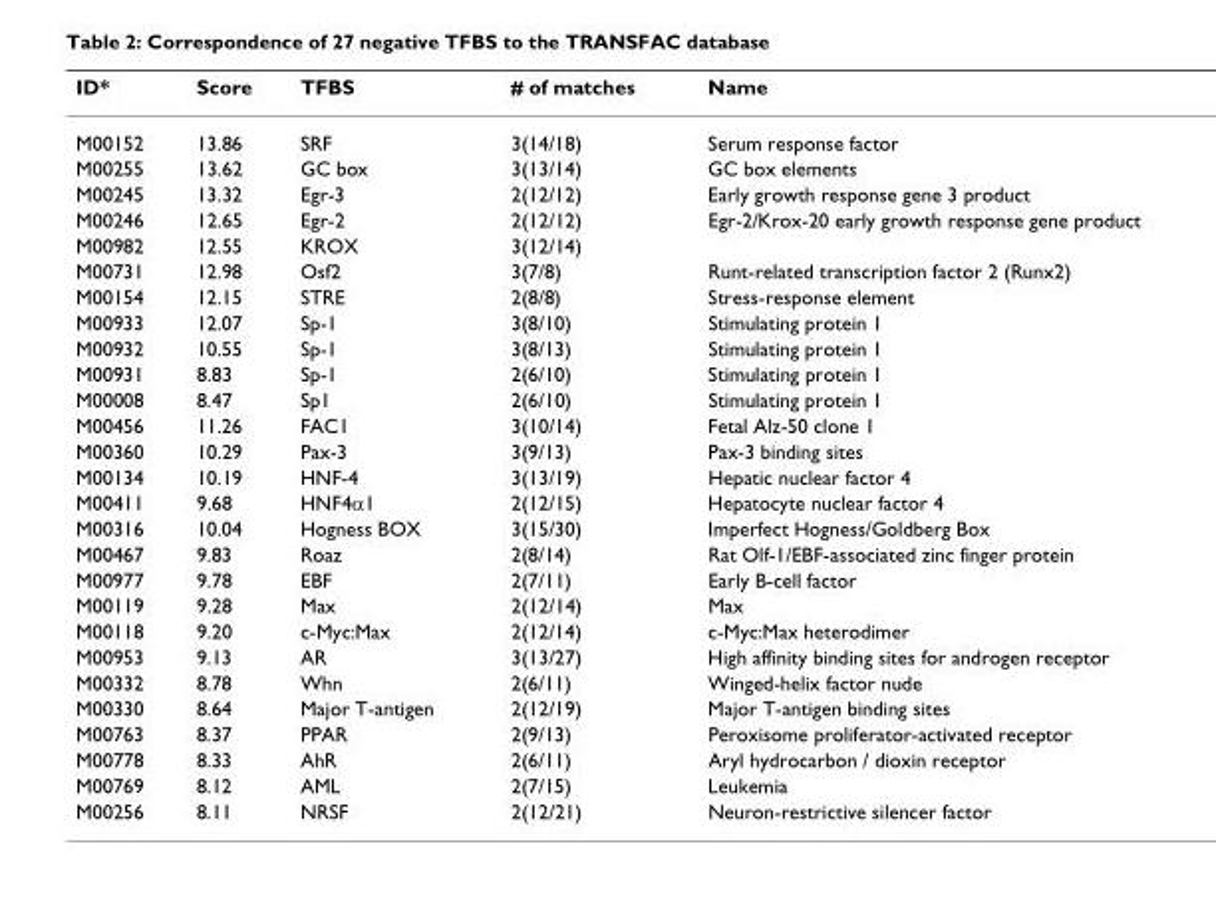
<table><thead><tr><td>ID*</td><td>Score</td><td>TFBS</td><td># of matches</td><td>Name</td></tr></thead><tbody><tr><td>M00152</td><td>13.86</td><td>SRF</td><td>3(14/18)</td><td>Serum response factor</td></tr><tr><td>M00255</td><td>13.62</td><td>GC box</td><td>3(13/14)</td><td>GC box elements</td></tr><tr><td>M00245</td><td>13.32</td><td>Egr-3</td><td>2(12/12)</td><td>Early growth response gene 3 product</td></tr><tr><td>M00246</td><td>12.65</td><td>Egr-2</td><td>2(12/12)</td><td>Egr-2/Krox-20 early growth response gene product</td></tr><tr><td>M00982</td><td>12.55</td><td>KROX</td><td>3(12/14)</td><td></td></tr><tr><td>M00731</td><td>12.98</td><td>Osf2</td><td>3(7/8)</td><td>Runt-related transcription factor 2 (Runx2)</td></tr><tr><td>M00154</td><td>12.15</td><td>STRE</td><td>2(8/8)</td><td>Stress-response element</td></tr><tr><td>M00933</td><td>12.07</td><td>Sp-1</td><td>3(8/10)</td><td>Stimulating protein 1</td></tr><tr><td>M00932</td><td>10.55</td><td>Sp-1</td><td>3(8/13)</td><td>Stimulating protein 1</td></tr><tr><td>M00931</td><td>8.83</td><td>Sp-1</td><td>2(6/10)</td><td>Stimulating protein 1</td></tr><tr><td>M00008</td><td>8.47</td><td>Sp1</td><td>2(6/10)</td><td>Stimulating protein 1</td></tr><tr><td>M00456</td><td>11.26</td><td>FAC1</td><td>3(10/14)</td><td>Fetal Alz-50 clone 1</td></tr><tr><td>M00360</td><td>10.29</td><td>Pax-3</td><td>3(9/13)</td><td>Pax-3 binding sites</td></tr><tr><td>M00134</td><td>10.19</td><td>HNF-4</td><td>3(13/19)</td><td>Hepatic nuclear factor 4</td></tr><tr><td>M00411</td><td>9.68</td><td>HNF4α1</td><td>2(12/15)</td><td>Hepatocyte nuclear factor 4</td></tr><tr><td>M00316</td><td>10.04</td><td>Hogness BOX</td><td>3(15/30)</td><td>Imperfect Hogness/Goldberg Box</td></tr><tr><td>M00467</td><td>9.83</td><td>Roaz</td><td>2(8/14)</td><td>Rat Olf-1/EBF-associated zinc finger protein</td></tr><tr><td>M00977</td><td>9.78</td><td>EBF</td><td>2(7/11)</td><td>Early B-cell factor</td></tr><tr><td>M00119</td><td>9.28</td><td>Max</td><td>2(12/14)</td><td>Max</td></tr><tr><td>M00118</td><td>9.20</td><td>c-Myc:Max</td><td>2(12/14)</td><td>c-Myc:Max heterodimer</td></tr><tr><td>M00953</td><td>9.13</td><td>AR</td><td>3(13/27)</td><td>High affinity binding sites for androgen receptor</td></tr><tr><td>M00332</td><td>8.78</td><td>Whn</td><td>2(6/11)</td><td>Winged-helix factor nude</td></tr><tr><td>M00330</td><td>8.64</td><td>Major T-antigen</td><td>2(12/19)</td><td>Major T-antigen binding sites</td></tr><tr><td>M00763</td><td>8.37</td><td>PPAR</td><td>2(9/13)</td><td>Peroxisome proliferator-activated receptor</td></tr><tr><td>M00778</td><td>8.33</td><td>AhR</td><td>2(6/11)</td><td>Aryl hydrocarbon / dioxin receptor</td></tr><tr><td>M00769</td><td>8.12</td><td>AML</td><td>2(7/15)</td><td>Leukemia</td></tr><tr><td>M00256</td><td>8.11</td><td>NRSF</td><td>2(12/21)</td><td>Neuron-restrictive silencer factor</td></tr></tbody></table>